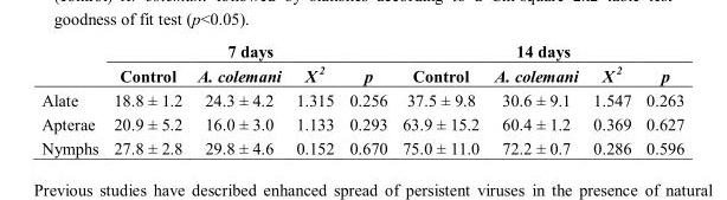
<table><thead><tr><td rowspan="2"></td><td colspan="4">7 days</td><td colspan="4">14 days</td></tr><tr><td>Control</td><td>A. colemani</td><td>X <sup>2</sup></td><td>p</td><td>Control</td><td>A. colemani</td><td>X <sup>2</sup></td><td>p</td></tr></thead><tbody><tr><td>Alate</td><td>18.8 ± 1.2</td><td>24.3 ± 4.2</td><td>1.315</td><td>0.256</td><td>37.5 ± 9.8</td><td>30.6 ± 9.1</td><td>1.547</td><td>0.263</td></tr><tr><td>Apterae</td><td>20.9 ± 5.2</td><td>16.0 ± 3.0</td><td>1.133</td><td>0.293</td><td>63.9 ± 15.2</td><td>60.4 ± 1.2</td><td>0.369</td><td>0.627</td></tr><tr><td>Nymphs</td><td>27.8 ± 2.8</td><td>29.8 ± 4.6</td><td>0.152</td><td>0.670</td><td>75.0 ± 11.0</td><td>72.2 ± 0.7</td><td>0.286</td><td>0.596</td></tr></tbody></table>